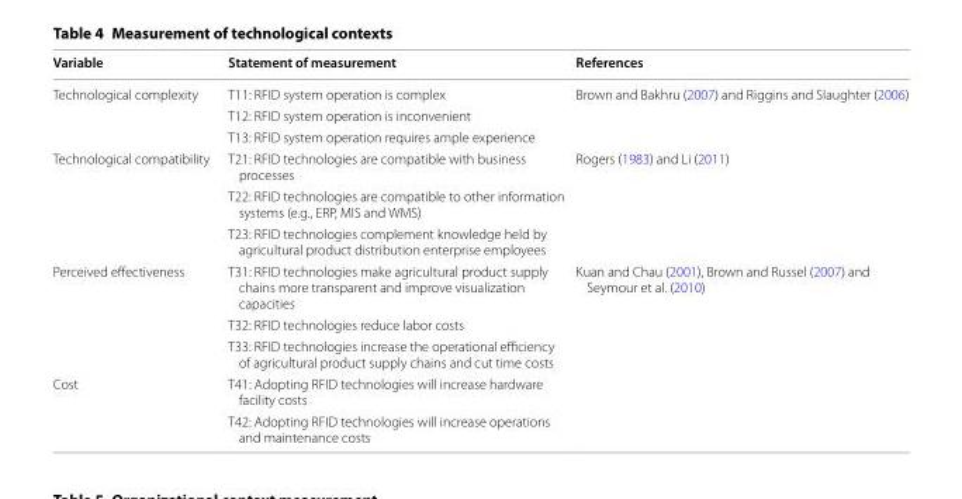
<table><thead><tr><td>Variable</td><td>Statement of measurement</td><td>References</td></tr></thead><tbody><tr><td rowspan="3">Technological complexity</td><td>T11: RFID system operation is complex</td><td rowspan="3">Brown and Bakhru (2007) and Riggins and Slaughter (2006)</td></tr><tr><td>T12: RFID system operation is inconvenient</td></tr><tr><td>T13: RFID system operation requires ample experience</td></tr><tr><td rowspan="3">Technological compatibility</td><td>T21: RFID technologies are compatible with business processes</td><td rowspan="3">Rogers (1983) and Li (2011)</td></tr><tr><td>T22: RFID technologies are compatible to other information systems (e.g., ERP, MIS and WMS)</td></tr><tr><td>T23: RFID technologies complement knowledge held by agricultural product distribution enterprise employees</td></tr><tr><td rowspan="3">Perceived effectiveness</td><td>T31: RFID technologies make agricultural product supply chains more transparent and improve visualization capacities</td><td rowspan="3">Kuan and Chau (2001), Brown and Russel (2007) and Seymour et al. (2010)</td></tr><tr><td>T32: RFID technologies reduce labor costs</td></tr><tr><td>T33: RFID technologies increase the operational efficiency of agricultural product supply chains and cut time costs</td></tr><tr><td rowspan="2">Cost</td><td>T41: Adopting RFID technologies will increase hardware facility costs</td><td rowspan="2"></td></tr><tr><td>T42: Adopting RFID technologies will increase operations and maintenance costs</td></tr></tbody></table>